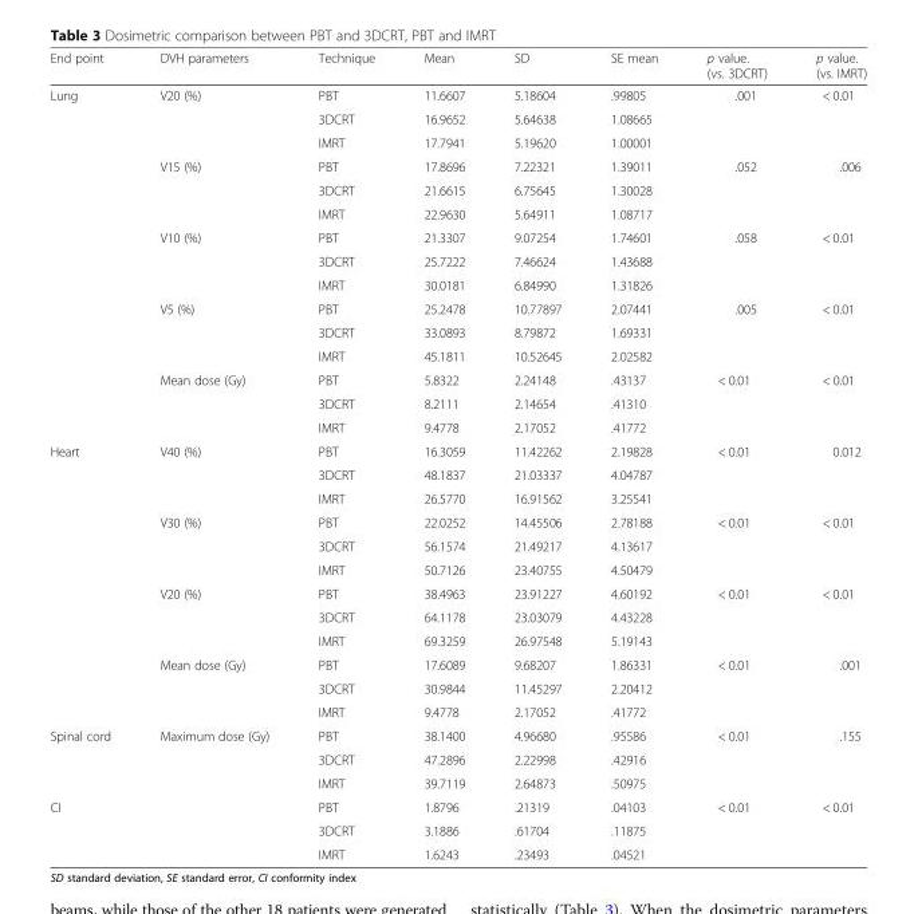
<table><thead><tr><td>End point</td><td>DVH parameters</td><td>Technique</td><td>Mean</td><td>SD</td><td>SE mean</td><td>p value. (vs. 3DCRT)</td><td>p value. (vs. IMRT)</td></tr></thead><tbody><tr><td rowspan="15">Lung</td><td>V20 (%)</td><td>PBT</td><td>11.6607</td><td>5.18604</td><td>.99805</td><td>.001</td><td>&lt; 0.01</td></tr><tr><td></td><td>3DCRT</td><td>16.9652</td><td>5.64638</td><td>1.08665</td><td></td><td></td></tr><tr><td></td><td>IMRT</td><td>17.7941</td><td>5.19620</td><td>1.00001</td><td></td><td></td></tr><tr><td>V15 (%)</td><td>PBT</td><td>17.8696</td><td>7.22321</td><td>1.39011</td><td>.052</td><td>.006</td></tr><tr><td></td><td>3DCRT</td><td>21.6615</td><td>6.75645</td><td>1.30028</td><td></td><td></td></tr><tr><td></td><td>IMRT</td><td>22.9630</td><td>5.64911</td><td>1.08717</td><td></td><td></td></tr><tr><td>V10 (%)</td><td>PBT</td><td>21.3307</td><td>9.07254</td><td>1.74601</td><td>.058</td><td>&lt; 0.01</td></tr><tr><td></td><td>3DCRT</td><td>25.7222</td><td>7.46624</td><td>1.43688</td><td></td><td></td></tr><tr><td></td><td>IMRT</td><td>30.0181</td><td>6.84990</td><td>1.31826</td><td></td><td></td></tr><tr><td>V5 (%)</td><td>PBT</td><td>25.2478</td><td>10.77897</td><td>2.07441</td><td>.005</td><td>&lt; 0.01</td></tr><tr><td></td><td>3DCRT</td><td>33.0893</td><td>8.79872</td><td>1.69331</td><td></td><td></td></tr><tr><td></td><td>IMRT</td><td>45.1811</td><td>10.52645</td><td>2.02582</td><td></td><td></td></tr><tr><td>Mean dose (Gy)</td><td>PBT</td><td>5.8322</td><td>2.24148</td><td>.43137</td><td>&lt; 0.01</td><td>&lt; 0.01</td></tr><tr><td></td><td>3DCRT</td><td>8.2111</td><td>2.14654</td><td>.41310</td><td></td><td></td></tr><tr><td></td><td>IMRT</td><td>9.4778</td><td>2.17052</td><td>.41772</td><td></td><td></td></tr><tr><td rowspan="12">Heart</td><td>V40 (%)</td><td>PBT</td><td>16.3059</td><td>11.42262</td><td>2.19828</td><td>&lt; 0.01</td><td>0.012</td></tr><tr><td></td><td>3DCRT</td><td>48.1837</td><td>21.03337</td><td>4.04787</td><td></td><td></td></tr><tr><td></td><td>IMRT</td><td>26.5770</td><td>16.91562</td><td>3.25541</td><td></td><td></td></tr><tr><td>V30 (%)</td><td>PBT</td><td>22.0252</td><td>14.45506</td><td>2.78188</td><td>&lt; 0.01</td><td>&lt; 0.01</td></tr><tr><td></td><td>3DCRT</td><td>56.1574</td><td>21.49217</td><td>4.13617</td><td></td><td></td></tr><tr><td></td><td>IMRT</td><td>50.7126</td><td>23.40755</td><td>4.50479</td><td></td><td></td></tr><tr><td>V20 (%)</td><td>PBT</td><td>38.4963</td><td>23.91227</td><td>4.60192</td><td>&lt; 0.01</td><td>&lt; 0.01</td></tr><tr><td></td><td>3DCRT</td><td>64.1178</td><td>23.03079</td><td>4.43228</td><td></td><td></td></tr><tr><td></td><td>IMRT</td><td>69.3259</td><td>26.97548</td><td>5.19143</td><td></td><td></td></tr><tr><td>Mean dose (Gy)</td><td>PBT</td><td>17.6089</td><td>9.68207</td><td>1.86331</td><td>&lt; 0.01</td><td>.001</td></tr><tr><td></td><td>3DCRT</td><td>30.9844</td><td>11.45297</td><td>2.20412</td><td></td><td></td></tr><tr><td></td><td>IMRT</td><td>9.4778</td><td>2.17052</td><td>.41772</td><td></td><td></td></tr><tr><td rowspan="3">Spinal cord</td><td>Maximum dose (Gy)</td><td>PBT</td><td>38.1400</td><td>4.96680</td><td>.95586</td><td>&lt; 0.01</td><td>.155</td></tr><tr><td></td><td>3DCRT</td><td>47.2896</td><td>2.22998</td><td>.42916</td><td></td><td></td></tr><tr><td></td><td>IMRT</td><td>39.7119</td><td>2.64873</td><td>.50975</td><td></td><td></td></tr><tr><td rowspan="3">CI</td><td></td><td>PBT</td><td>1.8796</td><td>.21319</td><td>.04103</td><td>&lt; 0.01</td><td>&lt; 0.01</td></tr><tr><td></td><td>3DCRT</td><td>3.1886</td><td>.61704</td><td>.11875</td><td></td><td></td></tr><tr><td></td><td>IMRT</td><td>1.6243</td><td>.23493</td><td>.04521</td><td></td><td></td></tr></tbody></table>